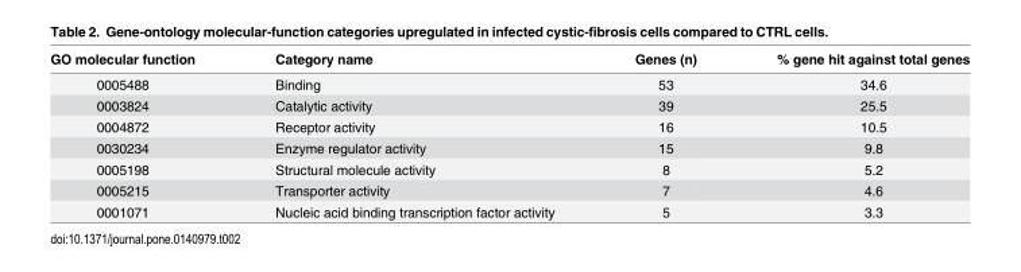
<table><thead><tr><td>GO molecular function</td><td>Category name</td><td>Genes (n)</td><td>% gene hit against total genes</td></tr></thead><tbody><tr><td>0005488</td><td>Binding</td><td>53</td><td>34.6</td></tr><tr><td>0003824</td><td>Catalytic activity</td><td>39</td><td>25.5</td></tr><tr><td>0004872</td><td>Receptor activity</td><td>16</td><td>10.5</td></tr><tr><td>0030234</td><td>Enzyme regulator activity</td><td>15</td><td>9.8</td></tr><tr><td>0005198</td><td>Structural molecule activity</td><td>8</td><td>5.2</td></tr><tr><td>0005215</td><td>Transporter activity</td><td>7</td><td>4.6</td></tr><tr><td>0001071</td><td>Nucleic acid binding transcription factor activity</td><td>5</td><td>3.3</td></tr></tbody></table>